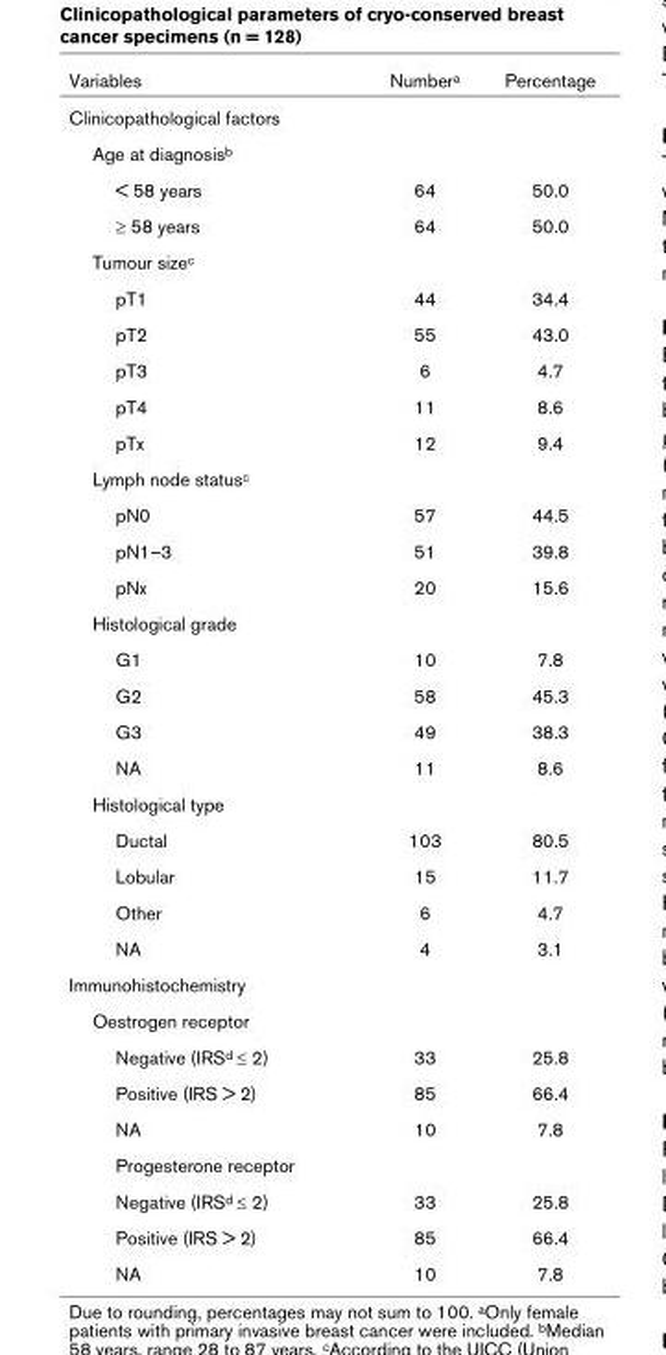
<table><thead><tr><td>Variables</td><td>Number<sup>a</sup></td><td>Percentage</td></tr></thead><tbody><tr><td colspan="3">Clinicopathological factors</td></tr><tr><td colspan="3">Age at diagnosis<sup>b</sup></td></tr><tr><td>&lt; 58 years</td><td>64</td><td>50.0</td></tr><tr><td>≥ 58 years</td><td>64</td><td>50.0</td></tr><tr><td colspan="3">Tumour size<sup>c</sup></td></tr><tr><td>pT1</td><td>44</td><td>34.4</td></tr><tr><td>pT2</td><td>55</td><td>43.0</td></tr><tr><td>pT3</td><td>6</td><td>4.7</td></tr><tr><td>pT4</td><td>11</td><td>8.6</td></tr><tr><td>pTx</td><td>12</td><td>9.4</td></tr><tr><td colspan="3">Lymph node status<sup>c</sup></td></tr><tr><td>pN0</td><td>57</td><td>44.5</td></tr><tr><td>pN1–3</td><td>51</td><td>39.8</td></tr><tr><td>pNx</td><td>20</td><td>15.6</td></tr><tr><td colspan="3">Histological grade</td></tr><tr><td>G1</td><td>10</td><td>7.8</td></tr><tr><td>G2</td><td>58</td><td>45.3</td></tr><tr><td>G3</td><td>49</td><td>38.3</td></tr><tr><td>NA</td><td>11</td><td>8.6</td></tr><tr><td colspan="3">Histological type</td></tr><tr><td>Ductal</td><td>103</td><td>80.5</td></tr><tr><td>Lobular</td><td>15</td><td>11.7</td></tr><tr><td>Other</td><td>6</td><td>4.7</td></tr><tr><td>NA</td><td>4</td><td>3.1</td></tr><tr><td colspan="3">Immunohistochemistry</td></tr><tr><td colspan="3">Oestrogen receptor</td></tr><tr><td>Negative (IRS<sup>d</sup> ≤ 2)</td><td>33</td><td>25.8</td></tr><tr><td>Positive (IRS &gt; 2)</td><td>85</td><td>66.4</td></tr><tr><td>NA</td><td>10</td><td>7.8</td></tr><tr><td colspan="3">Progesterone receptor</td></tr><tr><td>Negative (IRS<sup>d</sup> ≤ 2)</td><td>33</td><td>25.8</td></tr><tr><td>Positive (IRS &gt; 2)</td><td>85</td><td>66.4</td></tr><tr><td>NA</td><td>10</td><td>7.8</td></tr></tbody></table>